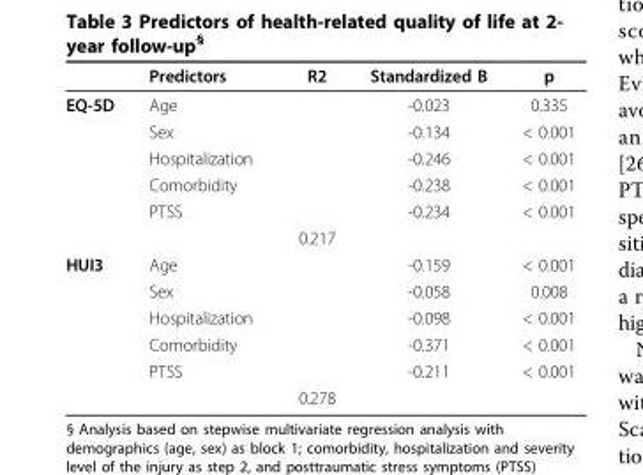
<table><thead><tr><td></td><td>Predictors</td><td>R2</td><td>Standardized B</td><td>p</td></tr></thead><tbody><tr><td rowspan="6">EQ-5D</td><td>Age</td><td></td><td>-0.023</td><td>0.335</td></tr><tr><td>Sex</td><td></td><td>-0.134</td><td>&lt; 0.001</td></tr><tr><td>Hospitalization</td><td></td><td>-0.246</td><td>&lt; 0.001</td></tr><tr><td>Comorbidity</td><td></td><td>-0.238</td><td>&lt; 0.001</td></tr><tr><td>PTSS</td><td></td><td>-0.234</td><td>&lt; 0.001</td></tr><tr><td></td><td>0.217</td><td></td><td></td></tr><tr><td rowspan="6">HUI3</td><td>Age</td><td></td><td>-0.159</td><td>&lt; 0.001</td></tr><tr><td>Sex</td><td></td><td>-0.058</td><td>0.008</td></tr><tr><td>Hospitalization</td><td></td><td>-0.098</td><td>&lt; 0.001</td></tr><tr><td>Comorbidity</td><td></td><td>-0.371</td><td>&lt; 0.001</td></tr><tr><td>PTSS</td><td></td><td>-0.211</td><td>&lt; 0.001</td></tr><tr><td></td><td>0.278</td><td></td><td></td></tr></tbody></table>